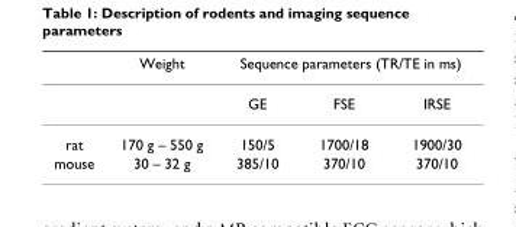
<table><thead><tr><td rowspan="2"></td><td rowspan="2">Weight</td><td colspan="3">Sequence parameters (TR/TE in ms)</td></tr><tr><td>GE</td><td>FSE</td><td>IRSE</td></tr></thead><tbody><tr><td>rat</td><td>170 g – 550 g</td><td>150/5</td><td>1700/18</td><td>1900/30</td></tr><tr><td>mouse</td><td>30 – 32 g</td><td>385/10</td><td>370/10</td><td>370/10</td></tr></tbody></table>